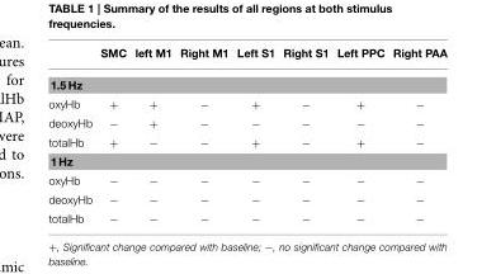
<table><thead><tr><td></td><td>SMC</td><td>left M1</td><td>Right M1</td><td>Left S1</td><td>Right S1</td><td>Left PPC</td><td>Right PAA</td></tr></thead><tbody><tr><td colspan="8">1.5 Hz</td></tr><tr><td>oxyHb</td><td>+</td><td>+</td><td>−</td><td>+</td><td>−</td><td>+</td><td>−</td></tr><tr><td>deoxyHb</td><td>−</td><td>+</td><td>−</td><td>−</td><td>−</td><td>−</td><td>−</td></tr><tr><td>totalHb</td><td>+</td><td>−</td><td>−</td><td>+</td><td>−</td><td>+</td><td>−</td></tr><tr><td colspan="8">1 Hz</td></tr><tr><td>oxyHb</td><td>−</td><td>−</td><td>−</td><td>−</td><td>−</td><td>−</td><td>−</td></tr><tr><td>deoxyHb</td><td>−</td><td>−</td><td>−</td><td>−</td><td>−</td><td>−</td><td>−</td></tr><tr><td>totalHb</td><td>−</td><td>−</td><td>−</td><td>−</td><td>−</td><td>−</td><td>−</td></tr></tbody></table>